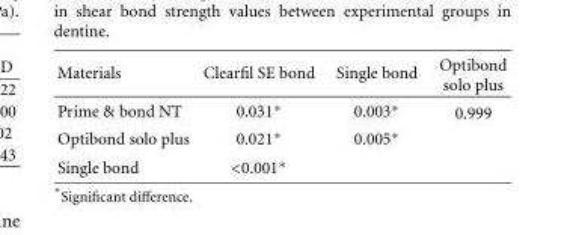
<table><thead><tr><td>Materials</td><td>Clearfil SE bond</td><td>Single bond</td><td>Optibond solo plus</td></tr></thead><tbody><tr><td>Prime &amp; bond NT</td><td>0.031∗</td><td>0.003∗</td><td>0.999</td></tr><tr><td>Optibond solo plus</td><td>0.021∗</td><td>0.005∗</td><td></td></tr><tr><td>Single bond</td><td>&lt;0.001∗</td><td></td><td></td></tr></tbody></table>